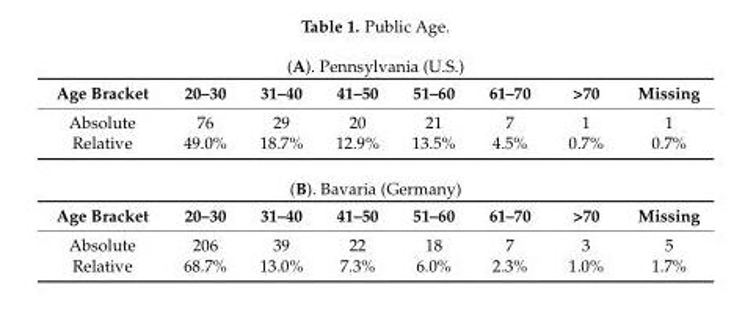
<table><tbody><tr><td colspan="8">(A). Pennsylvania (U.S.)</td></tr><tr><td>Age Bracket</td><td>20–30</td><td>31–40</td><td>41–50</td><td>51–60</td><td>61–70</td><td>&gt;70</td><td>Missing</td></tr><tr><td>Absolute</td><td>76</td><td>29</td><td>20</td><td>21</td><td>7</td><td>1</td><td>1</td></tr><tr><td>Relative</td><td>49.0%</td><td>18.7%</td><td>12.9%</td><td>13.5%</td><td>4.5%</td><td>0.7%</td><td>0.7%</td></tr><tr><td colspan="8">(B). Bavaria (Germany)</td></tr><tr><td>Age Bracket</td><td>20–30</td><td>31–40</td><td>41–50</td><td>51–60</td><td>61–70</td><td>&gt;70</td><td>Missing</td></tr><tr><td>Absolute</td><td>206</td><td>39</td><td>22</td><td>18</td><td>7</td><td>3</td><td>5</td></tr><tr><td>Relative</td><td>68.7%</td><td>13.0%</td><td>7.3%</td><td>6.0%</td><td>2.3%</td><td>1.0%</td><td>1.7%</td></tr></tbody></table>